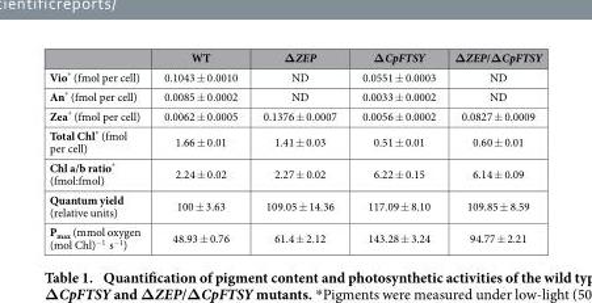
<table><thead><tr><td></td><td>WT</td><td>ΔZEP</td><td>ΔCpFTSY</td><td>ΔZEP/ΔCpFTSY</td></tr></thead><tbody><tr><td>Vio* (fmol per cell)</td><td>0.1043 ± 0.0010</td><td>ND</td><td>0.0551 ± 0.0003</td><td>ND</td></tr><tr><td>An* (fmol per cell)</td><td>0.0085 ± 0.0002</td><td>ND</td><td>0.0033 ± 0.0002</td><td>ND</td></tr><tr><td>Zea* (fmol per cell)</td><td>0.0062 ± 0.0005</td><td>0.1376 ± 0.0007</td><td>0.0056 ± 0.0002</td><td>0.0827 ± 0.0009</td></tr><tr><td>Total Chl* (fmol per cell)</td><td>1.66 ± 0.01</td><td>1.41 ± 0.03</td><td>0.51 ± 0.01</td><td>0.60 ± 0.01</td></tr><tr><td>Chl a/b ratio* (fmol:fmol)</td><td>2.24 ± 0.02</td><td>2.27 ± 0.02</td><td>6.22 ± 0.15</td><td>6.14 ± 0.09</td></tr><tr><td>Quantum yield (relative units)</td><td>100 ± 3.63</td><td>109.05 ± 14.36</td><td>117.09 ± 8.10</td><td>109.85 ± 8.59</td></tr><tr><td>P<sub>max</sub> (mmol oxygen (mol Chl)<sup>−1</sup> s<sup>−1</sup>)</td><td>48.93 ± 0.76</td><td>61.4 ± 2.12</td><td>143.28 ± 3.24</td><td>94.77 ± 2.21</td></tr></tbody></table>